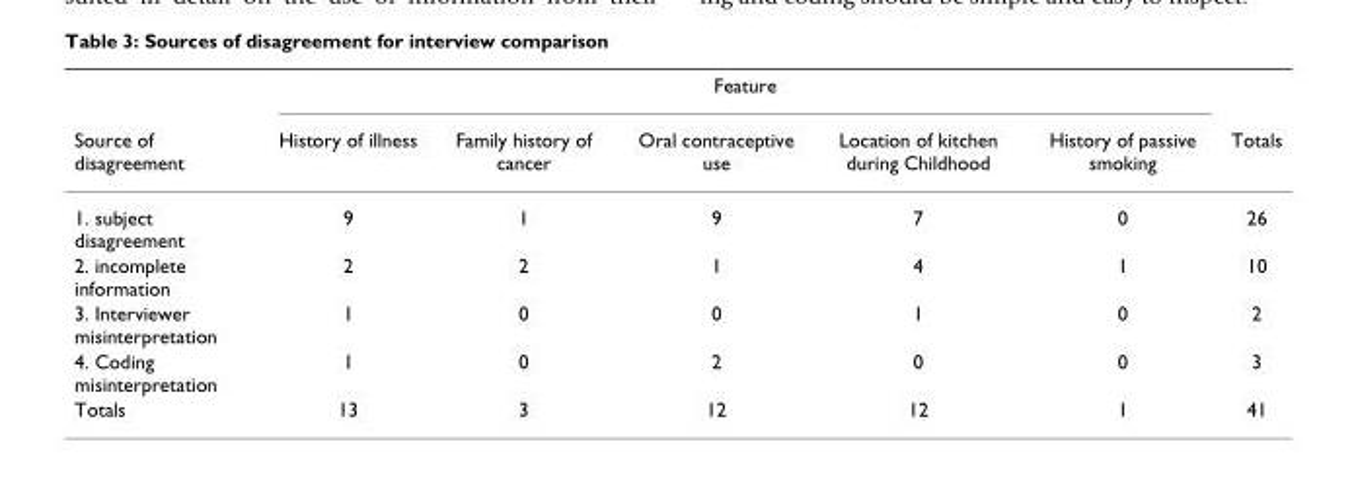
<table><thead><tr><td rowspan="2">Source of disagreement</td><td colspan="5">Feature</td><td rowspan="2">Totals</td></tr><tr><td>History of illness</td><td>Family history of cancer</td><td>Oral contraceptive use</td><td>Location of kitchen during Childhood</td><td>History of passive smoking</td></tr></thead><tbody><tr><td>1. subject disagreement</td><td>9</td><td>1</td><td>9</td><td>7</td><td>0</td><td>26</td></tr><tr><td>2. incomplete information</td><td>2</td><td>2</td><td>1</td><td>4</td><td>1</td><td>10</td></tr><tr><td>3. Interviewer misinterpretation</td><td>1</td><td>0</td><td>0</td><td>1</td><td>0</td><td>2</td></tr><tr><td>4. Coding misinterpretation</td><td>1</td><td>0</td><td>2</td><td>0</td><td>0</td><td>3</td></tr><tr><td>Totals</td><td>13</td><td>3</td><td>12</td><td>12</td><td>1</td><td>41</td></tr></tbody></table>